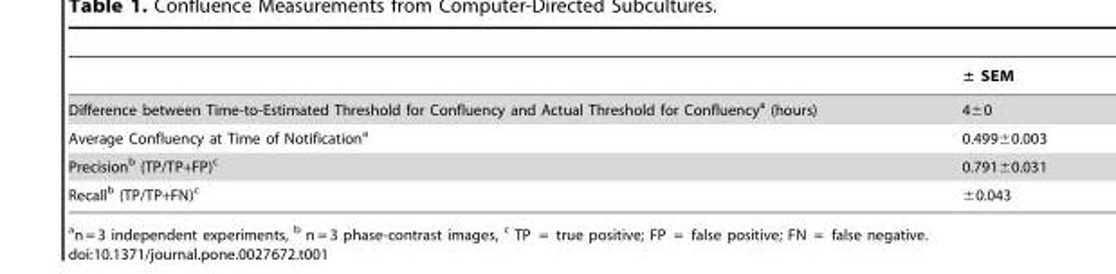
<table><thead><tr><td></td><td>± SEM</td></tr></thead><tbody><tr><td>Difference between Time-to-Estimated Threshold for Confluency and Actual Threshold for Confluency<sup>a</sup> (hours)</td><td>4±0</td></tr><tr><td>Average Confluency at Time of Notification<sup>a</sup></td><td>0.499±0.003</td></tr><tr><td>Precision<sup>b</sup> (TP/TP+FP)<sup>c</sup></td><td>0.791±0.031</td></tr><tr><td>Recall<sup>b</sup> (TP/TP+FN)<sup>c</sup></td><td>±0.043</td></tr></tbody></table>